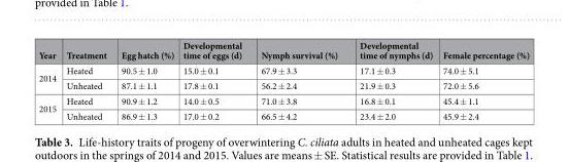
<table><thead><tr><td>Year</td><td>Treatment</td><td>Egg hatch (%)</td><td>Developmental time of eggs (d)</td><td>Nymph survival (%)</td><td>Developmental time of nymphs (d)</td><td>Female percentage (%)</td></tr></thead><tbody><tr><td rowspan="2">2014</td><td>Heated</td><td>90.5 ± 1.0</td><td>15.0 ± 0.1</td><td>67.9 ± 3.3</td><td>17.1 ± 0.3</td><td>74.0 ± 5.1</td></tr><tr><td>Unheated</td><td>87.1 ± 1.1</td><td>17.8 ± 0.1</td><td>56.2 ± 2.4</td><td>21.9 ± 0.3</td><td>72.0 ± 5.6</td></tr><tr><td rowspan="2">2015</td><td>Heated</td><td>90.9 ± 1.2</td><td>14.0 ± 0.5</td><td>71.0 ± 3.8</td><td>16.8 ± 0.1</td><td>45.4 ± 1.1</td></tr><tr><td>Unheated</td><td>86.9 ± 1.3</td><td>17.0 ± 0.2</td><td>66.5 ± 4.2</td><td>23.4 ± 2.0</td><td>45.9 ± 2.4</td></tr></tbody></table>